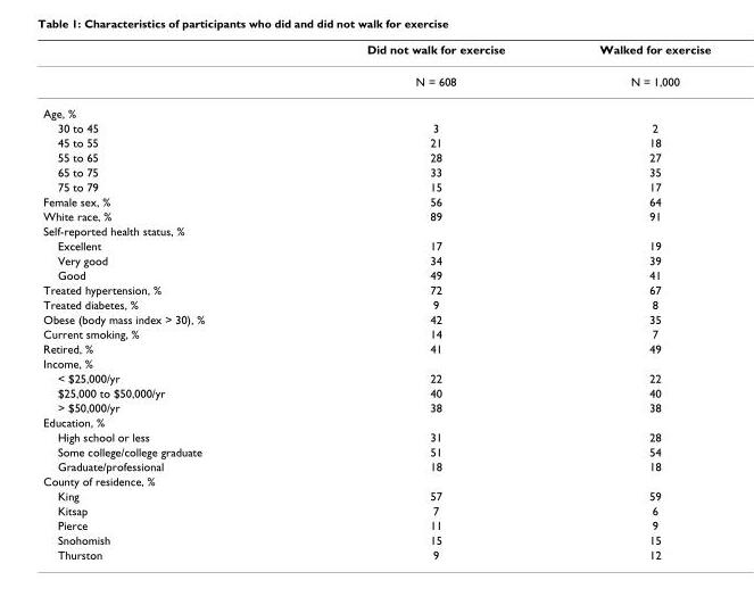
<table><thead><tr><td></td><td>Did not walk for exercise</td><td>Walked for exercise</td></tr></thead><tbody><tr><td></td><td>N = 608</td><td>N = 1,000</td></tr><tr><td colspan="3">Age, %</td></tr><tr><td>30 to 45</td><td>3</td><td>2</td></tr><tr><td>45 to 55</td><td>21</td><td>18</td></tr><tr><td>55 to 65</td><td>28</td><td>27</td></tr><tr><td>65 to 75</td><td>33</td><td>35</td></tr><tr><td>75 to 79</td><td>15</td><td>17</td></tr><tr><td>Female sex, %</td><td>56</td><td>64</td></tr><tr><td>White race, %</td><td>89</td><td>91</td></tr><tr><td colspan="3">Self-reported health status, %</td></tr><tr><td>Excellent</td><td>17</td><td>19</td></tr><tr><td>Very good</td><td>34</td><td>39</td></tr><tr><td>Good</td><td>49</td><td>41</td></tr><tr><td>Treated hypertension, %</td><td>72</td><td>67</td></tr><tr><td>Treated diabetes, %</td><td>9</td><td>8</td></tr><tr><td>Obese (body mass index &gt; 30), %</td><td>42</td><td>35</td></tr><tr><td>Current smoking, %</td><td>14</td><td>7</td></tr><tr><td>Retired, %</td><td>41</td><td>49</td></tr><tr><td colspan="3">Income, %</td></tr><tr><td>&lt; $25,000/yr</td><td>22</td><td>22</td></tr><tr><td>$25,000 to $50,000/yr</td><td>40</td><td>40</td></tr><tr><td>&gt; $50,000/yr</td><td>38</td><td>38</td></tr><tr><td colspan="3">Education, %</td></tr><tr><td>High school or less</td><td>31</td><td>28</td></tr><tr><td>Some college/college graduate</td><td>51</td><td>54</td></tr><tr><td>Graduate/professional</td><td>18</td><td>18</td></tr><tr><td colspan="3">County of residence, %</td></tr><tr><td>King</td><td>57</td><td>59</td></tr><tr><td>Kitsap</td><td>7</td><td>6</td></tr><tr><td>Pierce</td><td>11</td><td>9</td></tr><tr><td>Snohomish</td><td>15</td><td>15</td></tr><tr><td>Thurston</td><td>9</td><td>12</td></tr></tbody></table>